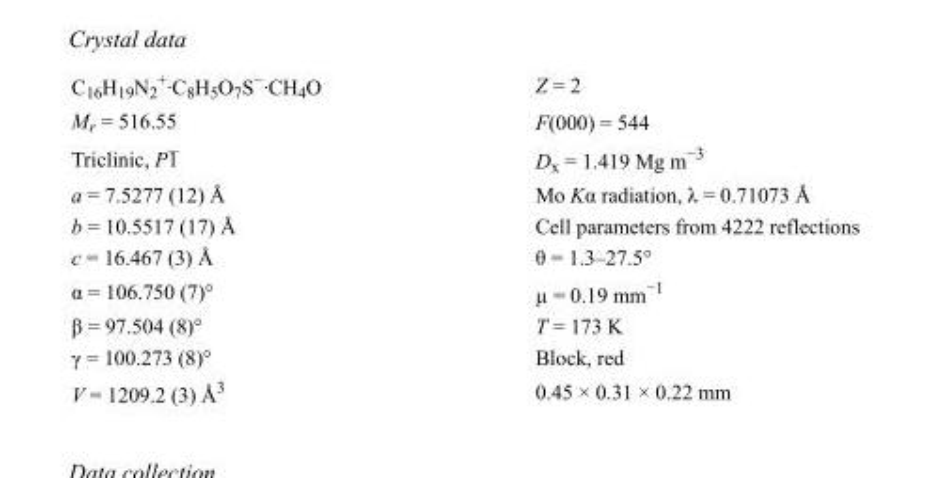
<table><tbody><tr><td>C<sub>16</sub>H<sub>19</sub>N<sub>2</sub> <sup>+</sup>·C<sub>8</sub>H<sub>5</sub>O<sub>7</sub>S<sup>−</sup>·CH<sub>4</sub>O</td><td>Z = 2</td></tr><tr><td>M<sub>r</sub> = 516.55</td><td>F(000) = 544</td></tr><tr><td>Triclinic, P1</td><td>D<sub>x</sub> = 1.419 Mg m<sup>−3</sup></td></tr><tr><td>a = 7.5277 (12) Å</td><td>Mo Kα radiation, λ = 0.71073 Å</td></tr><tr><td>b = 10.5517 (17) Å</td><td>Cell parameters from 4222 reflections</td></tr><tr><td>c = 16.467 (3) Å</td><td>θ = 1.3–27.5°</td></tr><tr><td>α = 106.750 (7)°</td><td>µ = 0.19 mm<sup>−1</sup></td></tr><tr><td>β = 97.504 (8)°</td><td>T = 173 K</td></tr><tr><td>γ = 100.273 (8)°</td><td>Block, red</td></tr><tr><td>V = 1209.2 (3) Å<sup>3</sup></td><td>0.45 × 0.31 × 0.22 mm</td></tr></tbody></table>